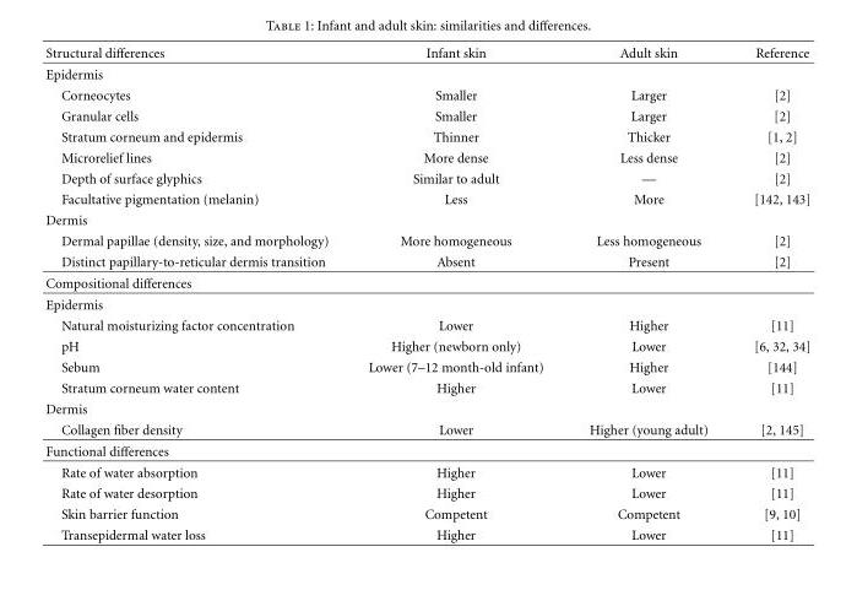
<table><thead><tr><td>Structural differences</td><td>Infant skin</td><td>Adult skin</td><td>Reference</td></tr></thead><tbody><tr><td colspan="4">Epidermis</td></tr><tr><td>Corneocytes</td><td>Smaller</td><td>Larger</td><td>[2]</td></tr><tr><td>Granular cells</td><td>Smaller</td><td>Larger</td><td>[2]</td></tr><tr><td>Stratum corneum and epidermis</td><td>Thinner</td><td>Thicker</td><td>[1, 2]</td></tr><tr><td>Microrelief lines</td><td>More dense</td><td>Less dense</td><td>[2]</td></tr><tr><td>Depth of surface glyphics</td><td>Similar to adult</td><td>—</td><td>[2]</td></tr><tr><td>Facultative pigmentation (melanin)</td><td>Less</td><td>More</td><td>[142, 143]</td></tr><tr><td colspan="4">Dermis</td></tr><tr><td>Dermal papillae (density, size, and morphology)</td><td>More homogeneous</td><td>Less homogeneous</td><td>[2]</td></tr><tr><td>Distinct papillary-to-reticular dermis transition</td><td>Absent</td><td>Present</td><td>[2]</td></tr><tr><td colspan="4">Compositional differences</td></tr><tr><td colspan="4">Epidermis</td></tr><tr><td>Natural moisturizing factor concentration</td><td>Lower</td><td>Higher</td><td>[11]</td></tr><tr><td>pH</td><td>Higher (newborn only)</td><td>Lower</td><td>[6, 32, 34]</td></tr><tr><td>Sebum</td><td>Lower (7–12 month-old infant)</td><td>Higher</td><td>[144]</td></tr><tr><td>Stratum corneum water content</td><td>Higher</td><td>Lower</td><td>[11]</td></tr><tr><td colspan="4">Dermis</td></tr><tr><td>Collagen fiber density</td><td>Lower</td><td>Higher (young adult)</td><td>[2, 145]</td></tr><tr><td colspan="4">Functional differences</td></tr><tr><td>Rate of water absorption</td><td>Higher</td><td>Lower</td><td>[11]</td></tr><tr><td>Rate of water desorption</td><td>Higher</td><td>Lower</td><td>[11]</td></tr><tr><td>Skin barrier function</td><td>Competent</td><td>Competent</td><td>[9, 10]</td></tr><tr><td>Transepidermal water loss</td><td>Higher</td><td>Lower</td><td>[11]</td></tr></tbody></table>